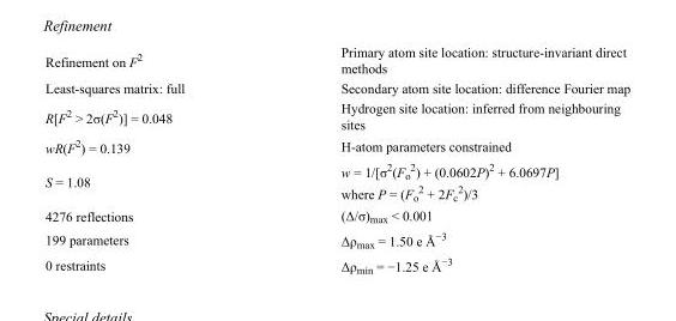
<table><tbody><tr><td>Refinement on F<sup>2</sup></td><td>Primary atom site location: structure-invariant direct methods</td></tr><tr><td>Least-squares matrix: full</td><td>Secondary atom site location: difference Fourier map</td></tr><tr><td>R[F<sup>2</sup> &gt; 2σ(F<sup>2</sup>)] = 0.048</td><td>Hydrogen site location: inferred from neighbouring sites</td></tr><tr><td>wR(F<sup>2</sup>) = 0.139</td><td>H-atom parameters constrained</td></tr><tr><td>S = 1.08</td><td>w = 1/[σ<sup>2</sup>(F<sub>o</sub> <sup>2</sup>) + (0.0602P)<sup>2</sup> + 6.0697P] where P = (F<sub>o</sub> <sup>2</sup> + 2F<sub>c</sub> <sup>2</sup>)/3</td></tr><tr><td>4276 reflections</td><td>(Δ/σ)<sub>max</sub> &lt; 0.001</td></tr><tr><td>199 parameters</td><td>Δρ<sub>max</sub> = 1.50 e Å<sup>−3</sup></td></tr><tr><td>0 restraints</td><td>Δρ<sub>min</sub> = −1.25 e Å<sup>−3</sup></td></tr></tbody></table>